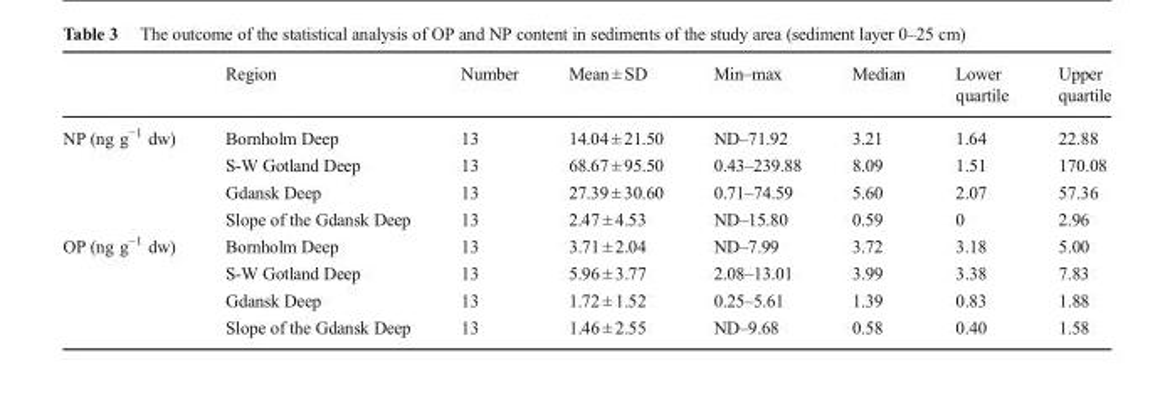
<table><thead><tr><td></td><td>Region</td><td>Number</td><td>Mean ± SD</td><td>Min–max</td><td>Median</td><td>Lower quartile</td><td>Upper quartile</td></tr></thead><tbody><tr><td rowspan="4">NP (ng g<sup>−1</sup> dw)</td><td>Bornholm Deep</td><td>13</td><td>14.04 ± 21.50</td><td>ND–71.92</td><td>3.21</td><td>1.64</td><td>22.88</td></tr><tr><td>S-W Gotland Deep</td><td>13</td><td>68.67 ± 95.50</td><td>0.43–239.88</td><td>8.09</td><td>1.51</td><td>170.08</td></tr><tr><td>Gdansk Deep</td><td>13</td><td>27.39 ± 30.60</td><td>0.71–74.59</td><td>5.60</td><td>2.07</td><td>57.36</td></tr><tr><td>Slope of the Gdansk Deep</td><td>13</td><td>2.47 ± 4.53</td><td>ND–15.80</td><td>0.59</td><td>0</td><td>2.96</td></tr><tr><td rowspan="4">OP (ng g<sup>−1</sup> dw)</td><td>Bornholm Deep</td><td>13</td><td>3.71 ± 2.04</td><td>ND–7.99</td><td>3.72</td><td>3.18</td><td>5.00</td></tr><tr><td>S-W Gotland Deep</td><td>13</td><td>5.96 ± 3.77</td><td>2.08–13.01</td><td>3.99</td><td>3.38</td><td>7.83</td></tr><tr><td>Gdansk Deep</td><td>13</td><td>1.72 ± 1.52</td><td>0.25–5.61</td><td>1.39</td><td>0.83</td><td>1.88</td></tr><tr><td>Slope of the Gdansk Deep</td><td>13</td><td>1.46 ± 2.55</td><td>ND–9.68</td><td>0.58</td><td>0.40</td><td>1.58</td></tr></tbody></table>